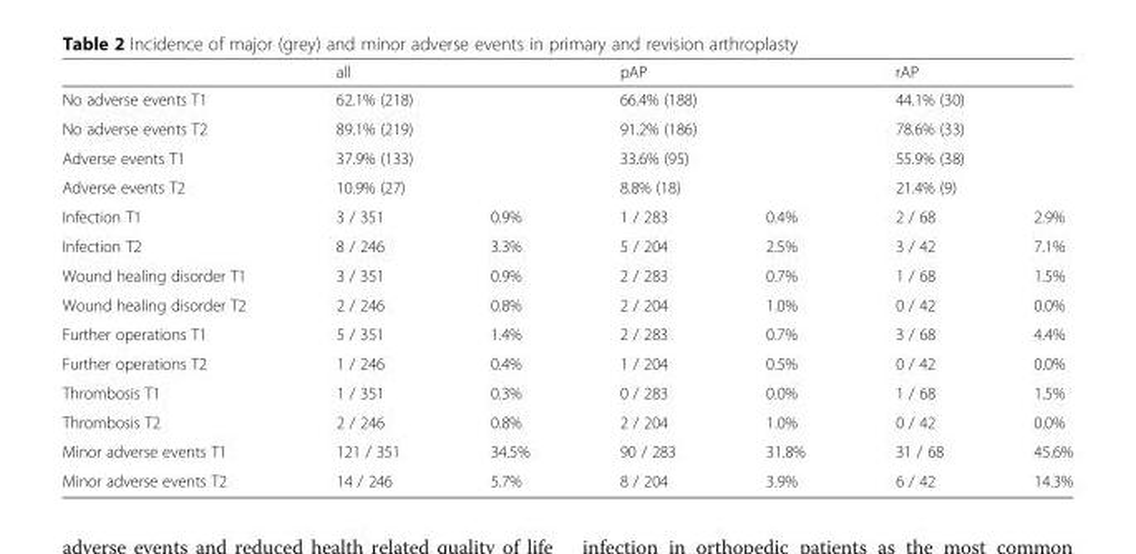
<table><thead><tr><td></td><td colspan="2">all</td><td colspan="2">pAP</td><td colspan="2">rAP</td></tr></thead><tbody><tr><td>No adverse events T1</td><td colspan="2">62.1% (218)</td><td colspan="2">66.4% (188)</td><td colspan="2">44.1% (30)</td></tr><tr><td>No adverse events T2</td><td colspan="2">89.1% (219)</td><td colspan="2">91.2% (186)</td><td colspan="2">78.6% (33)</td></tr><tr><td>Adverse events T1</td><td colspan="2">37.9% (133)</td><td colspan="2">33.6% (95)</td><td colspan="2">55.9% (38)</td></tr><tr><td>Adverse events T2</td><td colspan="2">10.9% (27)</td><td colspan="2">8.8% (18)</td><td colspan="2">21.4% (9)</td></tr><tr><td>Infection T1</td><td>3 / 351</td><td>0.9%</td><td>1 / 283</td><td>0.4%</td><td>2 / 68</td><td>2.9%</td></tr><tr><td>Infection T2</td><td>8 / 246</td><td>3.3%</td><td>5 / 204</td><td>2.5%</td><td>3 / 42</td><td>7.1%</td></tr><tr><td>Wound healing disorder T1</td><td>3 / 351</td><td>0.9%</td><td>2 / 283</td><td>0.7%</td><td>1 / 68</td><td>1.5%</td></tr><tr><td>Wound healing disorder T2</td><td>2 / 246</td><td>0.8%</td><td>2 / 204</td><td>1.0%</td><td>0 / 42</td><td>0.0%</td></tr><tr><td>Further operations T1</td><td>5 / 351</td><td>1.4%</td><td>2 / 283</td><td>0.7%</td><td>3 / 68</td><td>4.4%</td></tr><tr><td>Further operations T2</td><td>1 / 246</td><td>0.4%</td><td>1 / 204</td><td>0.5%</td><td>0 / 42</td><td>0.0%</td></tr><tr><td>Thrombosis T1</td><td>1 / 351</td><td>0.3%</td><td>0 / 283</td><td>0.0%</td><td>1 / 68</td><td>1.5%</td></tr><tr><td>Thrombosis T2</td><td>2 / 246</td><td>0.8%</td><td>2 / 204</td><td>1.0%</td><td>0 / 42</td><td>0.0%</td></tr><tr><td>Minor adverse events T1</td><td>121 / 351</td><td>34.5%</td><td>90 / 283</td><td>31.8%</td><td>31 / 68</td><td>45.6%</td></tr><tr><td>Minor adverse events T2</td><td>14 / 246</td><td>5.7%</td><td>8 / 204</td><td>3.9%</td><td>6 / 42</td><td>14.3%</td></tr></tbody></table>